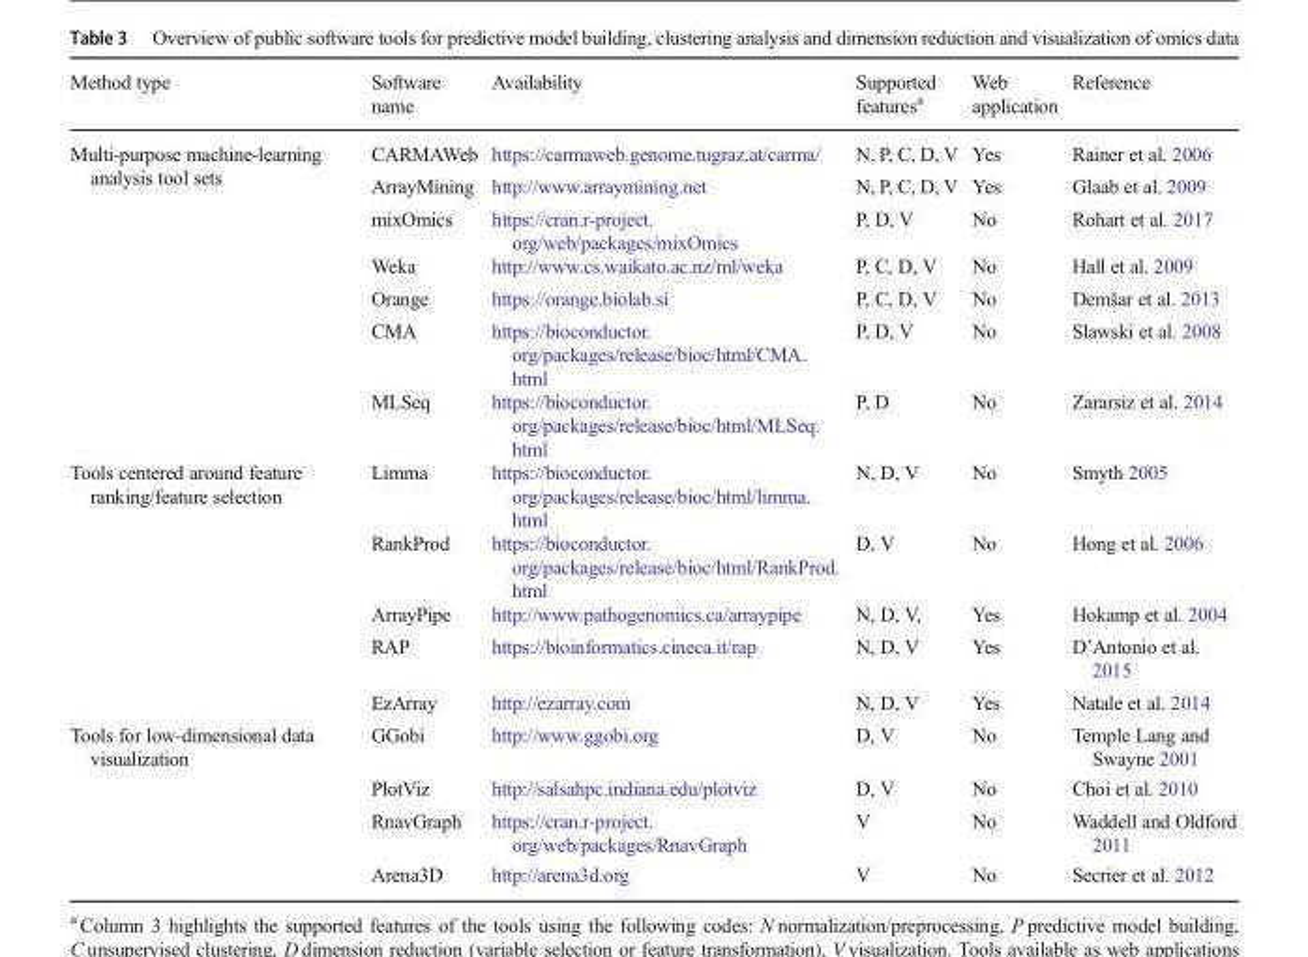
<table><thead><tr><td>Method type</td><td>Software name</td><td>Availability</td><td>Supported features<sup>a</sup></td><td>Web application</td><td>Reference</td></tr></thead><tbody><tr><td rowspan="7">Multi-purpose machine-learning analysis tool sets</td><td>CARMAWeb</td><td>https://carmaweb.genome.tugraz.at/carma/</td><td>N, P, C, D, V</td><td>Yes</td><td>Rainer et al. 2006</td></tr><tr><td>ArrayMining</td><td>http://www.arraymining.net</td><td>N, P, C, D, V</td><td>Yes</td><td>Glaab et al. 2009</td></tr><tr><td>mixOmics</td><td>https://cran.r-project. org/web/packages/mixOmics</td><td>P, D, V</td><td>No</td><td>Rohart et al. 2017</td></tr><tr><td>Weka</td><td>http://www.cs.waikato.ac.nz/ml/weka</td><td>P, C, D, V</td><td>No</td><td>Hall et al. 2009</td></tr><tr><td>Orange</td><td>https://orange.biolab.si</td><td>P, C, D, V</td><td>No</td><td>Demšar et al. 2013</td></tr><tr><td>CMA</td><td>https://bioconductor. org/packages/release/bioc/html/CMA. html</td><td>P, D, V</td><td>No</td><td>Slawski et al. 2008</td></tr><tr><td>MLSeq</td><td>https://bioconductor. org/packages/release/bioc/html/MLSeq. html</td><td>P, D</td><td>No</td><td>Zararsiz et al. 2014</td></tr><tr><td rowspan="5">Tools centered around feature ranking/feature selection</td><td>Limma</td><td>https://bioconductor. org/packages/release/bioc/html/limma. html</td><td>N, D, V</td><td>No</td><td>Smyth 2005</td></tr><tr><td>RankProd</td><td>https://bioconductor. org/packages/release/bioc/html/RankProd. html</td><td>D, V</td><td>No</td><td>Hong et al. 2006</td></tr><tr><td>ArrayPipe</td><td>http://www.pathogenomics.ca/arraypipe</td><td>N, D, V,</td><td>Yes</td><td>Hokamp et al. 2004</td></tr><tr><td>RAP</td><td>https://bioinformatics.cineca.it/rap</td><td>N, D, V</td><td>Yes</td><td>D’Antonio et al. 2015</td></tr><tr><td>EzArray</td><td>http://ezarray.com</td><td>N, D, V</td><td>Yes</td><td>Natale et al. 2014</td></tr><tr><td rowspan="4">Tools for low-dimensional data visualization</td><td>GGobi</td><td>http://www.ggobi.org</td><td>D, V</td><td>No</td><td>Temple Lang and Swayne 2001</td></tr><tr><td>PlotViz</td><td>http://salsahpc.indiana.edu/plotviz</td><td>D, V</td><td>No</td><td>Choi et al. 2010</td></tr><tr><td>RnavGraph</td><td>https://cran.r-project. org/web/packages/RnavGraph</td><td>V</td><td>No</td><td>Waddell and Oldford 2011</td></tr><tr><td>Arena3D</td><td>http://arena3d.org</td><td>V</td><td>No</td><td>Secrier et al. 2012</td></tr></tbody></table>